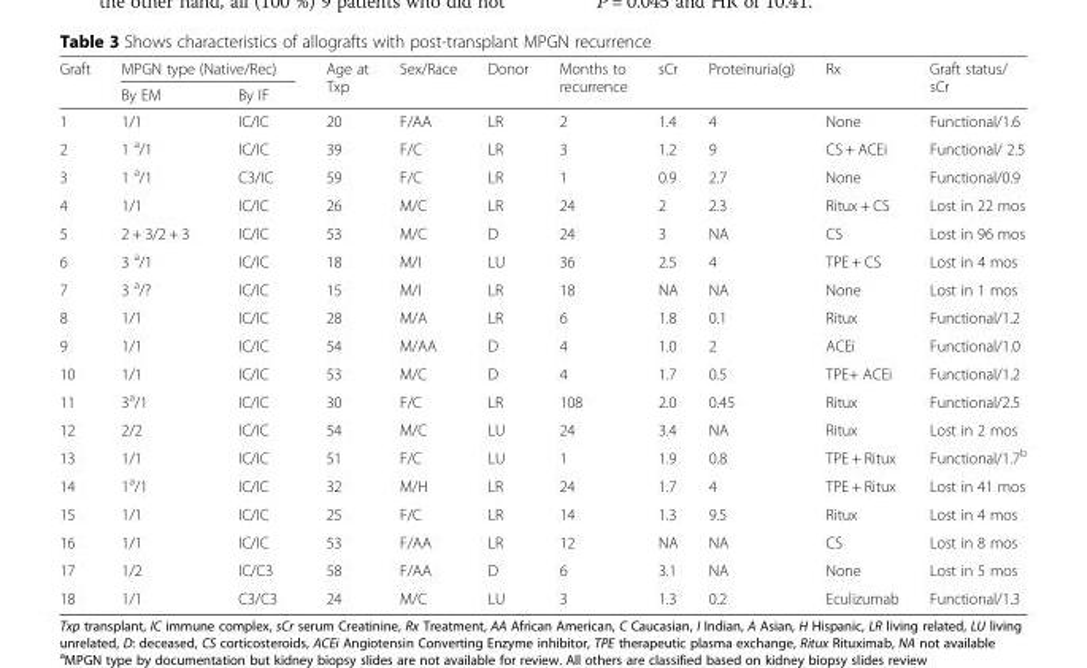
<table><thead><tr><td rowspan="2">Graft</td><td colspan="2">MPGN type (Native/Rec)</td><td rowspan="2">Age at Txp</td><td rowspan="2">Sex/Race</td><td rowspan="2">Donor</td><td rowspan="2">Months to recurrence</td><td rowspan="2">sCr</td><td rowspan="2">Proteinuria(g)</td><td rowspan="2">Rx</td><td rowspan="2">Graft status/ sCr</td></tr><tr><td>By EM</td><td>By IF</td></tr></thead><tbody><tr><td>1</td><td>1/1</td><td>IC/IC</td><td>20</td><td>F/AA</td><td>LR</td><td>2</td><td>1.4</td><td>4</td><td>None</td><td>Functional/1.6</td></tr><tr><td>2</td><td>1 <sup>a</sup>/1</td><td>IC/IC</td><td>39</td><td>F/C</td><td>LR</td><td>3</td><td>1.2</td><td>9</td><td>CS + ACEi</td><td>Functional/ 2.5</td></tr><tr><td>3</td><td>1 <sup>a</sup>/1</td><td>C3/IC</td><td>59</td><td>F/C</td><td>LR</td><td>1</td><td>0.9</td><td>2.7</td><td>None</td><td>Functional/0.9</td></tr><tr><td>4</td><td>1/1</td><td>IC/IC</td><td>26</td><td>M/C</td><td>LR</td><td>24</td><td>2</td><td>2.3</td><td>Ritux + CS</td><td>Lost in 22 mos</td></tr><tr><td>5</td><td>2 + 3/2 + 3</td><td>IC/IC</td><td>53</td><td>M/C</td><td>D</td><td>24</td><td>3</td><td>NA</td><td>CS</td><td>Lost in 96 mos</td></tr><tr><td>6</td><td>3 <sup>a</sup>/1</td><td>IC/IC</td><td>18</td><td>M/I</td><td>LU</td><td>36</td><td>2.5</td><td>4</td><td>TPE + CS</td><td>Lost in 4 mos</td></tr><tr><td>7</td><td>3 <sup>a</sup>/?</td><td>IC/IC</td><td>15</td><td>M/I</td><td>LR</td><td>18</td><td>NA</td><td>NA</td><td>None</td><td>Lost in 1 mos</td></tr><tr><td>8</td><td>1/1</td><td>IC/IC</td><td>28</td><td>M/A</td><td>LR</td><td>6</td><td>1.8</td><td>0.1</td><td>Ritux</td><td>Functional/1.2</td></tr><tr><td>9</td><td>1/1</td><td>IC/IC</td><td>54</td><td>M/AA</td><td>D</td><td>4</td><td>1.0</td><td>2</td><td>ACEi</td><td>Functional/1.0</td></tr><tr><td>10</td><td>1/1</td><td>IC/IC</td><td>53</td><td>M/C</td><td>D</td><td>4</td><td>1.7</td><td>0.5</td><td>TPE+ ACEi</td><td>Functional/1.2</td></tr><tr><td>11</td><td>3<sup>a</sup>/1</td><td>IC/IC</td><td>30</td><td>F/C</td><td>LR</td><td>108</td><td>2.0</td><td>0.45</td><td>Ritux</td><td>Functional/2.5</td></tr><tr><td>12</td><td>2/2</td><td>IC/IC</td><td>54</td><td>M/C</td><td>LU</td><td>24</td><td>3.4</td><td>NA</td><td>Ritux</td><td>Lost in 2 mos</td></tr><tr><td>13</td><td>1/1</td><td>IC/IC</td><td>51</td><td>F/C</td><td>LU</td><td>1</td><td>1.9</td><td>0.8</td><td>TPE + Ritux</td><td>Functional/1.7<sup>b</sup></td></tr><tr><td>14</td><td>1<sup>a</sup>/1</td><td>IC/IC</td><td>32</td><td>M/H</td><td>LR</td><td>24</td><td>1.7</td><td>4</td><td>TPE + Ritux</td><td>Lost in 41 mos</td></tr><tr><td>15</td><td>1/1</td><td>IC/IC</td><td>25</td><td>F/C</td><td>LR</td><td>14</td><td>1.3</td><td>9.5</td><td>Ritux</td><td>Lost in 4 mos</td></tr><tr><td>16</td><td>1/1</td><td>IC/IC</td><td>53</td><td>F/AA</td><td>LR</td><td>12</td><td>NA</td><td>NA</td><td>CS</td><td>Lost in 8 mos</td></tr><tr><td>17</td><td>1/2</td><td>IC/C3</td><td>58</td><td>F/AA</td><td>D</td><td>6</td><td>3.1</td><td>NA</td><td>None</td><td>Lost in 5 mos</td></tr><tr><td>18</td><td>1/1</td><td>C3/C3</td><td>24</td><td>M/C</td><td>LU</td><td>3</td><td>1.3</td><td>0.2</td><td>Eculizumab</td><td>Functional/1.3</td></tr></tbody></table>